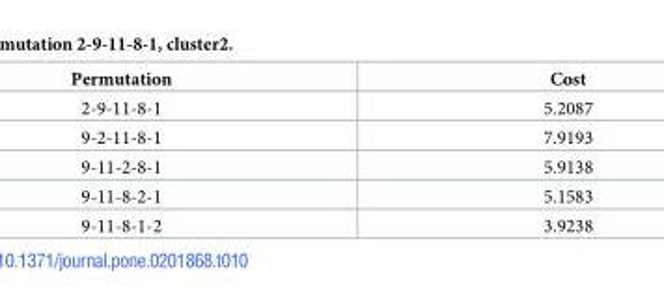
<table><thead><tr><td>Permutation</td><td>Cost</td></tr></thead><tbody><tr><td>2-9-11-8-1</td><td>5.2087</td></tr><tr><td>9-2-11-8-1</td><td>7.9193</td></tr><tr><td>9-11-2-8-1</td><td>5.9138</td></tr><tr><td>9-11-8-2-1</td><td>5.1583</td></tr><tr><td>9-11-8-1-2</td><td>3.9238</td></tr></tbody></table>